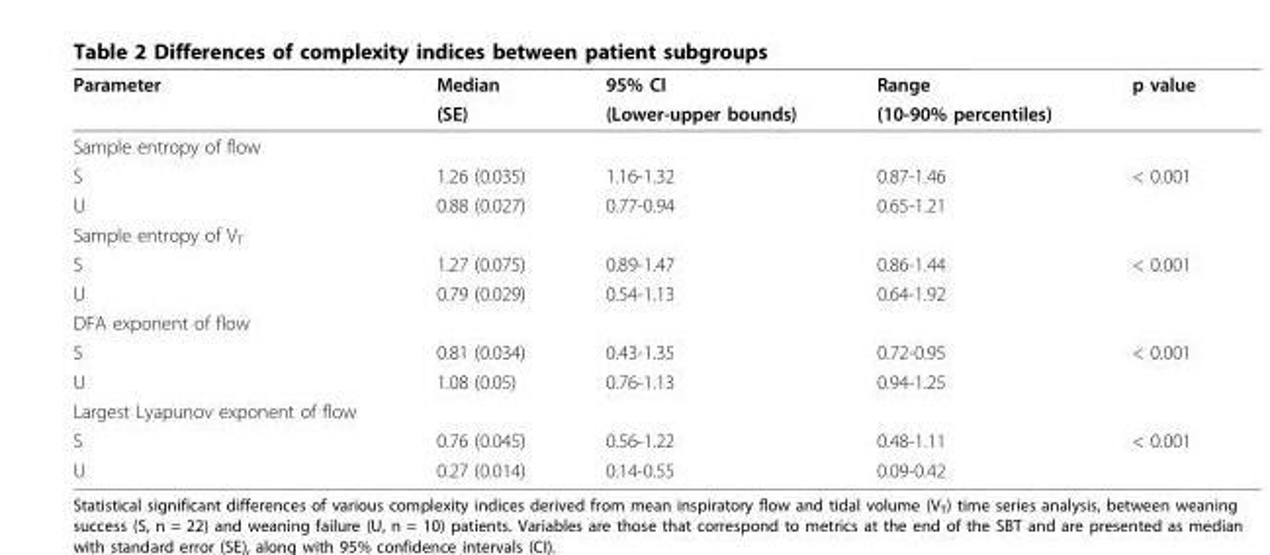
<table><thead><tr><td rowspan="2">Parameter</td><td rowspan="2">Median (SE)</td><td rowspan="2">95% CI (Lower-upper bounds)</td><td rowspan="2">Range (10-90% percentiles)</td><td rowspan="2">p value</td></tr><tr></tr></thead><tbody><tr><td colspan="5">Sample entropy of flow</td></tr><tr><td>S</td><td>1.26 (0.035)</td><td>1.16-1.32</td><td>0.87-1.46</td><td>&lt; 0.001</td></tr><tr><td>U</td><td>0.88 (0.027)</td><td>0.77-0.94</td><td>0.65-1.21</td><td></td></tr><tr><td colspan="5">Sample entropy of V<sub>T</sub></td></tr><tr><td>S</td><td>1.27 (0.075)</td><td>0.89-1.47</td><td>0.86-1.44</td><td>&lt; 0.001</td></tr><tr><td>U</td><td>0.79 (0.029)</td><td>0.54-1.13</td><td>0.64-1.92</td><td></td></tr><tr><td colspan="5">DFA exponent of flow</td></tr><tr><td>S</td><td>0.81 (0.034)</td><td>0.43-1.35</td><td>0.72-0.95</td><td>&lt; 0.001</td></tr><tr><td>U</td><td>1.08 (0.05)</td><td>0.76-1.13</td><td>0.94-1.25</td><td></td></tr><tr><td colspan="5">Largest Lyapunov exponent of flow</td></tr><tr><td>S</td><td>0.76 (0.045)</td><td>0.56-1.22</td><td>0.48-1.11</td><td>&lt; 0.001</td></tr><tr><td>U</td><td>0.27 (0.014)</td><td>0.14-0.55</td><td>0.09-0.42</td><td></td></tr></tbody></table>